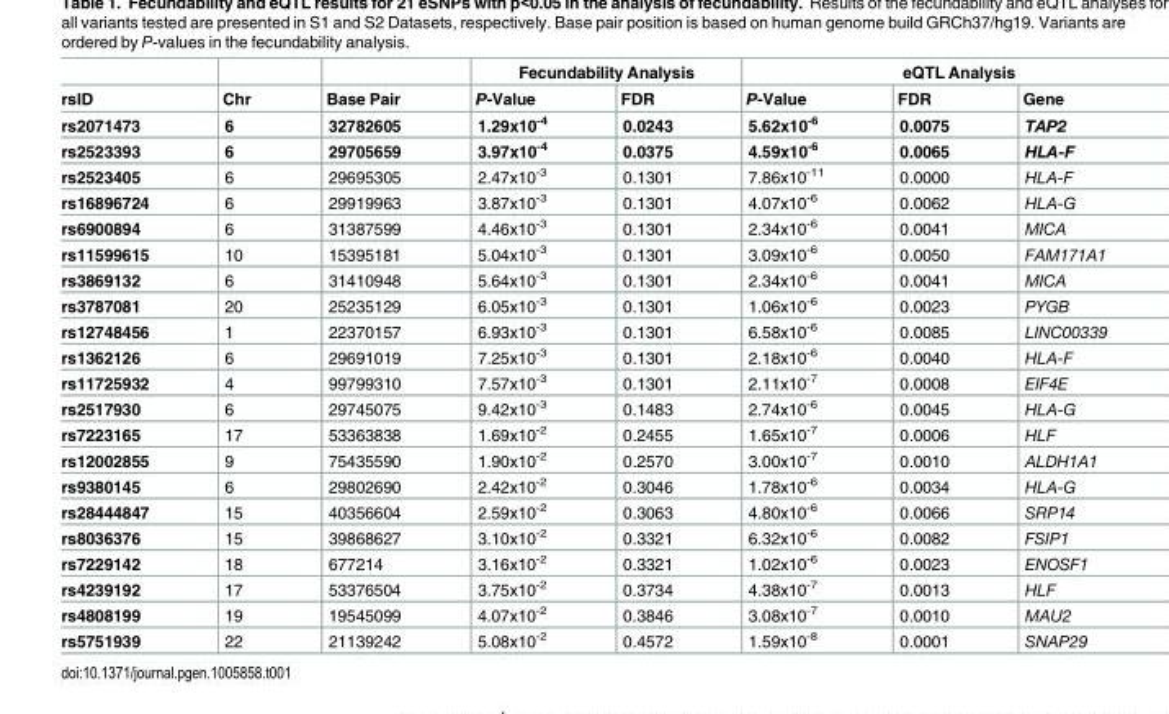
<table><thead><tr><td rowspan="2">rsID</td><td rowspan="2">Chr</td><td rowspan="2">Base Pair</td><td colspan="2">Fecundability Analysis</td><td colspan="3">eQTL Analysis</td></tr><tr><td>P-Value</td><td>FDR</td><td>P-Value</td><td>FDR</td><td>Gene</td></tr></thead><tbody><tr><td>rs2071473</td><td>6</td><td>32782605</td><td>1.29x10<sup>-4</sup></td><td>0.0243</td><td>5.62x10<sup>-6</sup></td><td>0.0075</td><td>TAP2</td></tr><tr><td>rs2523393</td><td>6</td><td>29705659</td><td>3.97x10<sup>-4</sup></td><td>0.0375</td><td>4.59x10<sup>-6</sup></td><td>0.0065</td><td>HLA-F</td></tr><tr><td>rs2523405</td><td>6</td><td>29695305</td><td>2.47x10<sup>-3</sup></td><td>0.1301</td><td>7.86x10<sup>-11</sup></td><td>0.0000</td><td>HLA-F</td></tr><tr><td>rs16896724</td><td>6</td><td>29919963</td><td>3.87x10<sup>-3</sup></td><td>0.1301</td><td>4.07x10<sup>-6</sup></td><td>0.0062</td><td>HLA-G</td></tr><tr><td>rs6900894</td><td>6</td><td>31387599</td><td>4.46x10<sup>-3</sup></td><td>0.1301</td><td>2.34x10<sup>-6</sup></td><td>0.0041</td><td>MICA</td></tr><tr><td>rs11599615</td><td>10</td><td>15395181</td><td>5.04x10<sup>-3</sup></td><td>0.1301</td><td>3.09x10<sup>-6</sup></td><td>0.0050</td><td>FAM171A1</td></tr><tr><td>rs3869132</td><td>6</td><td>31410948</td><td>5.64x10<sup>-3</sup></td><td>0.1301</td><td>2.34x10<sup>-6</sup></td><td>0.0041</td><td>MICA</td></tr><tr><td>rs3787081</td><td>20</td><td>25235129</td><td>6.05x10<sup>-3</sup></td><td>0.1301</td><td>1.06x10<sup>-6</sup></td><td>0.0023</td><td>PYGB</td></tr><tr><td>rs12748456</td><td>1</td><td>22370157</td><td>6.93x10<sup>-3</sup></td><td>0.1301</td><td>6.58x10<sup>-6</sup></td><td>0.0085</td><td>LINC00339</td></tr><tr><td>rs1362126</td><td>6</td><td>29691019</td><td>7.25x10<sup>-3</sup></td><td>0.1301</td><td>2.18x10<sup>-6</sup></td><td>0.0040</td><td>HLA-F</td></tr><tr><td>rs11725932</td><td>4</td><td>99799310</td><td>7.57x10<sup>-3</sup></td><td>0.1301</td><td>2.11x10<sup>-7</sup></td><td>0.0008</td><td>EIF4E</td></tr><tr><td>rs2517930</td><td>6</td><td>29745075</td><td>9.42x10<sup>-3</sup></td><td>0.1483</td><td>2.74x10<sup>-6</sup></td><td>0.0045</td><td>HLA-G</td></tr><tr><td>rs7223165</td><td>17</td><td>53363838</td><td>1.69x10<sup>-2</sup></td><td>0.2455</td><td>1.65x10<sup>-7</sup></td><td>0.0006</td><td>HLF</td></tr><tr><td>rs12002855</td><td>9</td><td>75435590</td><td>1.90x10<sup>-2</sup></td><td>0.2570</td><td>3.00x10<sup>-7</sup></td><td>0.0010</td><td>ALDH1A1</td></tr><tr><td>rs9380145</td><td>6</td><td>29802690</td><td>2.42x10<sup>-2</sup></td><td>0.3046</td><td>1.78x10<sup>-6</sup></td><td>0.0034</td><td>HLA-G</td></tr><tr><td>rs28444847</td><td>15</td><td>40356604</td><td>2.59x10<sup>-2</sup></td><td>0.3063</td><td>4.80x10<sup>-6</sup></td><td>0.0066</td><td>SRP14</td></tr><tr><td>rs8036376</td><td>15</td><td>39868627</td><td>3.10x10<sup>-2</sup></td><td>0.3321</td><td>6.32x10<sup>-6</sup></td><td>0.0082</td><td>FSIP1</td></tr><tr><td>rs7229142</td><td>18</td><td>677214</td><td>3.16x10<sup>-2</sup></td><td>0.3321</td><td>1.02x10<sup>-6</sup></td><td>0.0023</td><td>ENOSF1</td></tr><tr><td>rs4239192</td><td>17</td><td>53376504</td><td>3.75x10<sup>-2</sup></td><td>0.3734</td><td>4.38x10<sup>-7</sup></td><td>0.0013</td><td>HLF</td></tr><tr><td>rs4808199</td><td>19</td><td>19545099</td><td>4.07x10<sup>-2</sup></td><td>0.3846</td><td>3.08x10<sup>-7</sup></td><td>0.0010</td><td>MAU2</td></tr><tr><td>rs5751939</td><td>22</td><td>21139242</td><td>5.08x10<sup>-2</sup></td><td>0.4572</td><td>1.59x10<sup>-8</sup></td><td>0.0001</td><td>SNAP29</td></tr></tbody></table>